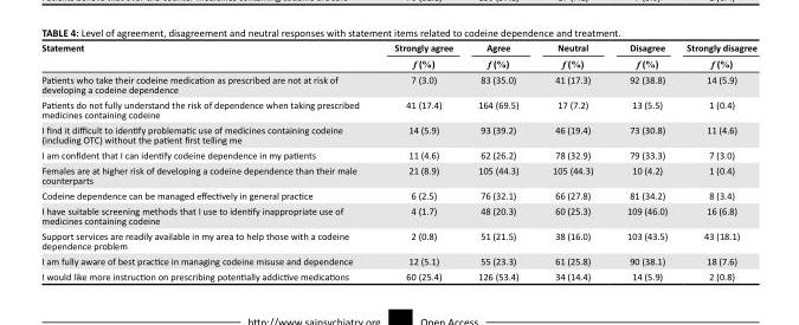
<table><thead><tr><td rowspan="2">Statement</td><td rowspan="2">Strongly agree f (%)</td><td rowspan="2">Agree f (%)</td><td rowspan="2">Neutral f (%)</td><td rowspan="2">Disagree f (%)</td><td rowspan="2">Strongly disagree f (%)</td></tr><tr></tr></thead><tbody><tr><td>Patients who take their codeine medication as prescribed are not at risk of developing a codeine dependence</td><td>7 (3.0)</td><td>83 (35.0)</td><td>41 (17.3)</td><td>92 (38.8)</td><td>14 (5.9)</td></tr><tr><td>Patients do not fully understand the risk of dependence when taking prescribed medicines containing codeine</td><td>41 (17.4)</td><td>164 (69.5)</td><td>17 (7.2)</td><td>13 (5.5)</td><td>1 (0.4)</td></tr><tr><td>I find it difficult to identify problematic use of medicines containing codeine (including OTC) without the patient first telling me</td><td>14 (5.9)</td><td>93 (39.2)</td><td>46 (19.4)</td><td>73 (30.8)</td><td>11 (4.6)</td></tr><tr><td>I am confident that I can identify codeine dependence in my patients</td><td>11 (4.6)</td><td>62 (26.2)</td><td>78 (32.9)</td><td>79 (33.3)</td><td>7 (3.0)</td></tr><tr><td>Females are at higher risk of developing a codeine dependence than their male counterparts</td><td>21 (8.9)</td><td>105 (44.3)</td><td>105 (44.3)</td><td>10 (4.2)</td><td>1 (0.4)</td></tr><tr><td>Codeine dependence can be managed effectively in general practice</td><td>6 (2.5)</td><td>76 (32.1)</td><td>66 (27.8)</td><td>81 (34.2)</td><td>8 (3.4)</td></tr><tr><td>I have suitable screening methods that I use to identify inappropriate use of medicines containing codeine</td><td>4 (1.7)</td><td>48 (20.3)</td><td>60 (25.3)</td><td>109 (46.0)</td><td>16 (6.8)</td></tr><tr><td>Support services are readily available in my area to help those with a codeine dependence problem</td><td>2 (0.8)</td><td>51 (21.5)</td><td>38 (16.0)</td><td>103 (43.5)</td><td>43 (18.1)</td></tr><tr><td>I am fully aware of best practice in managing codeine misuse and dependence</td><td>12 (5.1)</td><td>55 (23.3)</td><td>61 (25.8)</td><td>90 (38.1)</td><td>18 (7.6)</td></tr><tr><td>I would like more instruction on prescribing potentially addictive medications</td><td>60 (25.4)</td><td>126 (53.4)</td><td>34 (14.4)</td><td>14 (5.9)</td><td>2 (0.8)</td></tr></tbody></table>